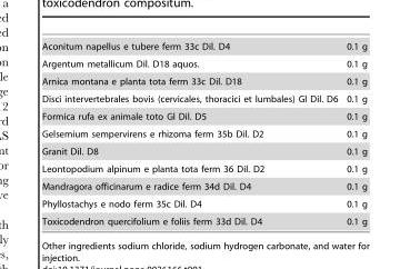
<table><tbody><tr><td>Aconitum napellus e tubere ferm 33c Dil. D4</td><td>0.1 g</td></tr><tr><td>Argentum metallicum Dil. D18 aquos.</td><td>0.1 g</td></tr><tr><td>Arnica montana e planta tota ferm 33c Dil. D18</td><td>0.1 g</td></tr><tr><td>Disci intervertebrales bovis (cervicales, thoracici et lumbales) Gl Dil. D6</td><td>0.1 g</td></tr><tr><td>Formica rufa ex animale toto Gl Dil. D5</td><td>0.1 g</td></tr><tr><td>Gelsemium sempervirens e rhizoma ferm 35b Dil. D2</td><td>0.1 g</td></tr><tr><td>Granit Dil. D8</td><td>0.1 g</td></tr><tr><td>Leontopodium alpinum e planta tota ferm 36 Dil. D2</td><td>0.1 g</td></tr><tr><td>Mandragora officinarum e radice ferm 34d Dil. D4</td><td>0.1 g</td></tr><tr><td>Phyllostachys e nodo ferm 35c Dil. D4</td><td>0.1 g</td></tr><tr><td>Toxicodendron quercifolium e foliis ferm 33d Dil. D4</td><td>0.1 g</td></tr></tbody></table>